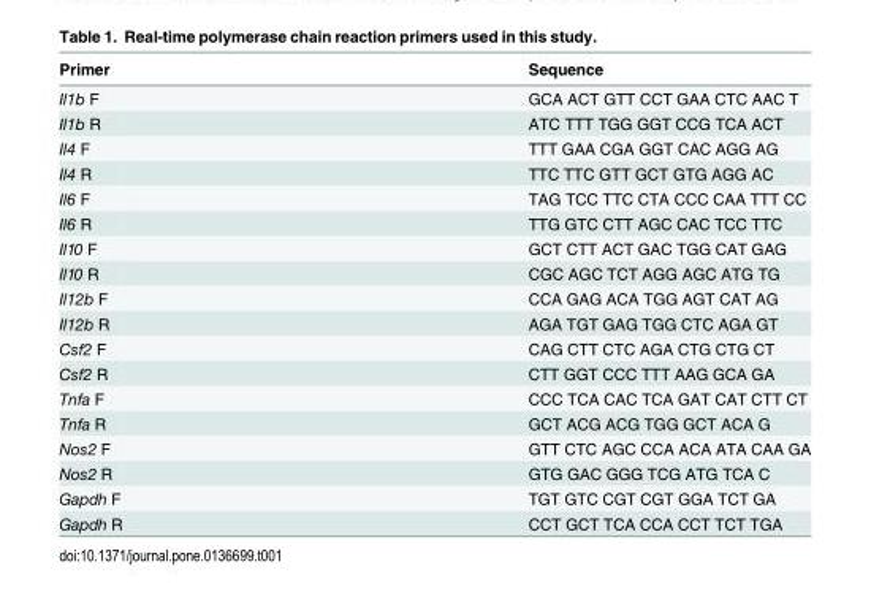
<table><thead><tr><td>Primer</td><td>Sequence</td></tr></thead><tbody><tr><td>Il1b F</td><td>GCA ACT GTT CCT GAA CTC AAC T</td></tr><tr><td>Il1b R</td><td>ATC TTT TGG GGT CCG TCA ACT</td></tr><tr><td>Il4 F</td><td>TTT GAA CGA GGT CAC AGG AG</td></tr><tr><td>Il4 R</td><td>TTC TTC GTT GCT GTG AGG AC</td></tr><tr><td>Il6 F</td><td>TAG TCC TTC CTA CCC CAA TTT CC</td></tr><tr><td>Il6 R</td><td>TTG GTC CTT AGC CAC TCC TTC</td></tr><tr><td>Il10 F</td><td>GCT CTT ACT GAC TGG CAT GAG</td></tr><tr><td>Il10 R</td><td>CGC AGC TCT AGG AGC ATG TG</td></tr><tr><td>Il12b F</td><td>CCA GAG ACA TGG AGT CAT AG</td></tr><tr><td>Il12b R</td><td>AGA TGT GAG TGG CTC AGA GT</td></tr><tr><td>Csf2 F</td><td>CAG CTT CTC AGA CTG CTG CT</td></tr><tr><td>Csf2 R</td><td>CTT GGT CCC TTT AAG GCA GA</td></tr><tr><td>Tnfa F</td><td>CCC TCA CAC TCA GAT CAT CTT CT</td></tr><tr><td>Tnfa R</td><td>GCT ACG ACG TGG GCT ACA G</td></tr><tr><td>Nos2 F</td><td>GTT CTC AGC CCA ACA ATA CAA GA</td></tr><tr><td>Nos2 R</td><td>GTG GAC GGG TCG ATG TCA C</td></tr><tr><td>Gapdh F</td><td>TGT GTC CGT CGT GGA TCT GA</td></tr><tr><td>Gapdh R</td><td>CCT GCT TCA CCA CCT TCT TGA</td></tr></tbody></table>